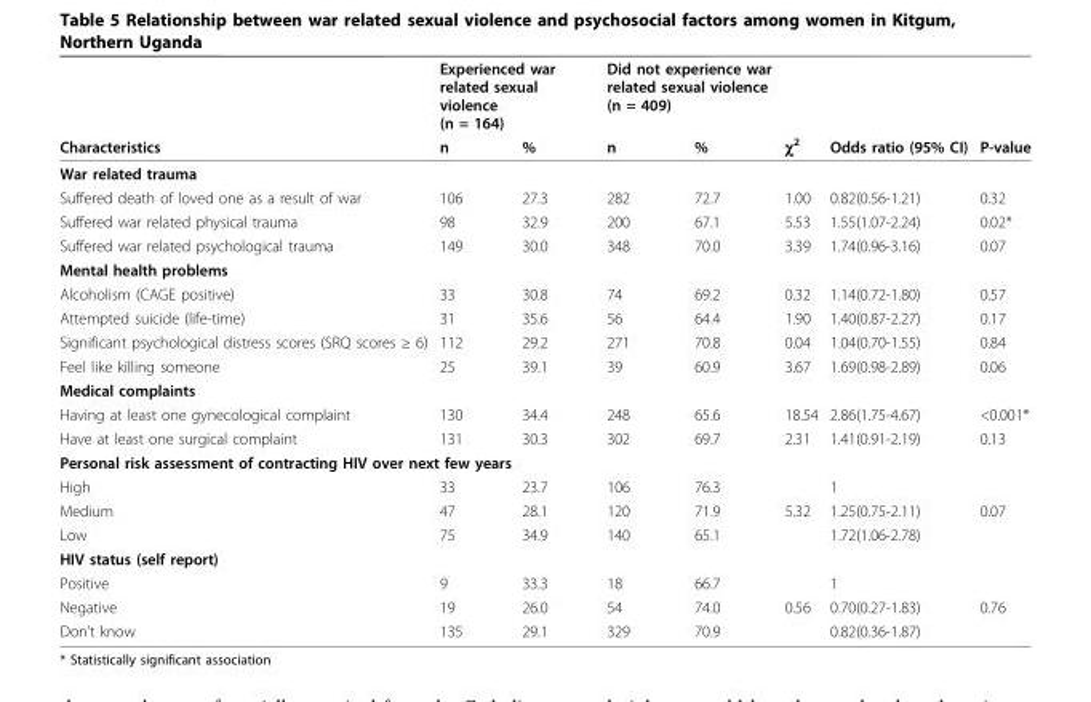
<table><thead><tr><td rowspan="2">Characteristics</td><td colspan="2">Experienced war related sexual violence (n = 164)</td><td colspan="2">Did not experience war related sexual violence (n = 409)</td><td rowspan="2">χ<sup>2</sup></td><td rowspan="2">Odds ratio (95% CI)</td><td rowspan="2">P-value</td></tr><tr><td>n</td><td>%</td><td>n</td><td>%</td></tr></thead><tbody><tr><td colspan="8">War related trauma</td></tr><tr><td>Suffered death of loved one as a result of war</td><td>106</td><td>27.3</td><td>282</td><td>72.7</td><td>1.00</td><td>0.82(0.56-1.21)</td><td>0.32</td></tr><tr><td>Suffered war related physical trauma</td><td>98</td><td>32.9</td><td>200</td><td>67.1</td><td>5.53</td><td>1.55(1.07-2.24)</td><td>0.02*</td></tr><tr><td>Suffered war related psychological trauma</td><td>149</td><td>30.0</td><td>348</td><td>70.0</td><td>3.39</td><td>1.74(0.96-3.16)</td><td>0.07</td></tr><tr><td colspan="8">Mental health problems</td></tr><tr><td>Alcoholism (CAGE positive)</td><td>33</td><td>30.8</td><td>74</td><td>69.2</td><td>0.32</td><td>1.14(0.72-1.80)</td><td>0.57</td></tr><tr><td>Attempted suicide (life-time)</td><td>31</td><td>35.6</td><td>56</td><td>64.4</td><td>1.90</td><td>1.40(0.87-2.27)</td><td>0.17</td></tr><tr><td>Significant psychological distress scores (SRQ scores ≥ 6)</td><td>112</td><td>29.2</td><td>271</td><td>70.8</td><td>0.04</td><td>1.04(0.70-1.55)</td><td>0.84</td></tr><tr><td>Feel like killing someone</td><td>25</td><td>39.1</td><td>39</td><td>60.9</td><td>3.67</td><td>1.69(0.98-2.89)</td><td>0.06</td></tr><tr><td colspan="8">Medical complaints</td></tr><tr><td>Having at least one gynecological complaint</td><td>130</td><td>34.4</td><td>248</td><td>65.6</td><td>18.54</td><td>2.86(1.75-4.67)</td><td>&lt;0.001*</td></tr><tr><td>Have at least one surgical complaint</td><td>131</td><td>30.3</td><td>302</td><td>69.7</td><td>2.31</td><td>1.41(0.91-2.19)</td><td>0.13</td></tr><tr><td colspan="8">Personal risk assessment of contracting HIV over next few years</td></tr><tr><td>High</td><td>33</td><td>23.7</td><td>106</td><td>76.3</td><td></td><td>1</td><td></td></tr><tr><td>Medium</td><td>47</td><td>28.1</td><td>120</td><td>71.9</td><td>5.32</td><td>1.25(0.75-2.11)</td><td>0.07</td></tr><tr><td>Low</td><td>75</td><td>34.9</td><td>140</td><td>65.1</td><td></td><td>1.72(1.06-2.78)</td><td></td></tr><tr><td colspan="8">HIV status (self report)</td></tr><tr><td>Positive</td><td>9</td><td>33.3</td><td>18</td><td>66.7</td><td></td><td>1</td><td></td></tr><tr><td>Negative</td><td>19</td><td>26.0</td><td>54</td><td>74.0</td><td>0.56</td><td>0.70(0.27-1.83)</td><td>0.76</td></tr><tr><td>Don’t know</td><td>135</td><td>29.1</td><td>329</td><td>70.9</td><td></td><td>0.82(0.36-1.87)</td><td></td></tr></tbody></table>